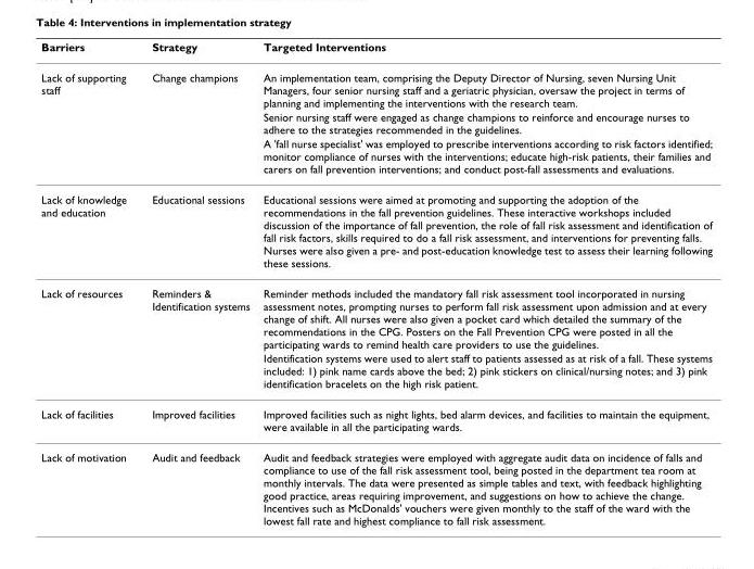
<table><thead><tr><td>Barriers</td><td>Strategy</td><td>Targeted Interventions</td></tr></thead><tbody><tr><td rowspan="3">Lack of supporting staff</td><td>Change champions</td><td>An implementation team, comprising the Deputy Director of Nursing, seven Nursing Unit Managers, four senior nursing staff and a geriatric physician, oversaw the project in terms of planning and implementing the interventions with the research team.</td></tr><tr><td></td><td>Senior nursing staff were engaged as change champions to reinforce and encourage nurses to adhere to the strategies recommended in the guidelines.</td></tr><tr><td></td><td>A &#x27;fall nurse specialist&#x27; was employed to prescribe interventions according to risk factors identified; monitor compliance of nurses with the interventions; educate high-risk patients, their families and carers on fall prevention interventions; and conduct post-fall assessments and evaluations.</td></tr><tr><td>Lack of knowledge and education</td><td>Educational sessions</td><td>Educational sessions were aimed at promoting and supporting the adoption of the recommendations in the fall prevention guidelines. These interactive workshops included discussion of the importance of fall prevention, the role of fall risk assessment and identification of fall risk factors, skills required to do a fall risk assessment, and interventions for preventing falls. Nurses were also given a pre- and post-education knowledge test to assess their learning following these sessions.</td></tr><tr><td rowspan="2">Lack of resources</td><td>Reminders &amp; Identification systems</td><td>Reminder methods included the mandatory fall risk assessment tool incorporated in nursing assessment notes, prompting nurses to perform fall risk assessment upon admission and at every change of shift. All nurses were also given a pocket card which detailed the summary of the recommendations in the CPG. Posters on the Fall Prevention CPG were posted in all the participating wards to remind health care providers to use the guidelines.</td></tr><tr><td></td><td>Identification systems were used to alert staff to patients assessed as at risk of a fall. These systems included: 1) pink name cards above the bed; 2) pink stickers on clinical/nursing notes; and 3) pink identification bracelets on the high risk patient.</td></tr><tr><td>Lack of facilities</td><td>Improved facilities</td><td>Improved facilities such as night lights, bed alarm devices, and facilities to maintain the equipment, were available in all the participating wards.</td></tr><tr><td>Lack of motivation</td><td>Audit and feedback</td><td>Audit and feedback strategies were employed with aggregate audit data on incidence of falls and compliance to use of the fall risk assessment tool, being posted in the department tea room at monthly intervals. The data were presented as simple tables and text, with feedback highlighting good practice, areas requiring improvement, and suggestions on how to achieve the change. Incentives such as McDonalds&#x27; vouchers were given monthly to the staff of the ward with the lowest fall rate and highest compliance to fall risk assessment.</td></tr></tbody></table>